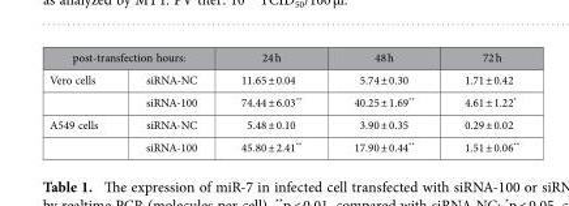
<table><thead><tr><td colspan="2">post-transfection hours:</td><td rowspan="2">24 h 11.65 ± 0.04</td><td rowspan="2">48 h 5.74 ± 0.30</td><td rowspan="2">72 h 1.71 ± 0.42</td></tr><tr><td>Vero cells</td><td>siRNA-NC</td></tr></thead><tbody><tr><td></td><td>siRNA-100</td><td>74.44 ± 6.03**</td><td>40.25 ± 1.69**</td><td>4.61 ± 1.22*</td></tr><tr><td rowspan="2">A549 cells</td><td>siRNA-NC</td><td>5.48 ± 0.10</td><td>3.90 ± 0.35</td><td>0.29 ± 0.02</td></tr><tr><td>siRNA-100</td><td>45.80 ± 2.41**</td><td>17.90 ± 0.44**</td><td>1.51 ± 0.06**</td></tr></tbody></table>